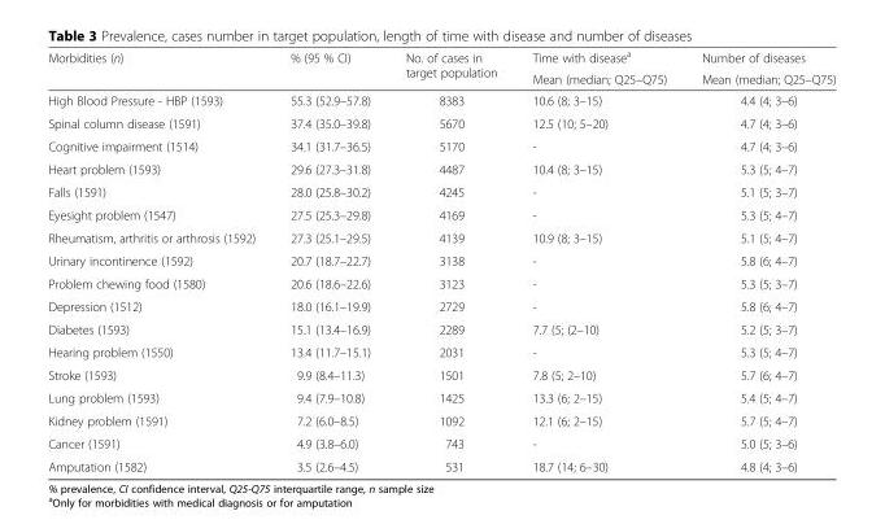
<table><thead><tr><td rowspan="2">Morbidities (n)</td><td rowspan="2">% (95 % CI)</td><td rowspan="2">No. of cases in target population</td><td rowspan="2">Time with disease<sup>a</sup> Mean (median; Q25–Q75)</td><td rowspan="2">Number of diseases Mean (median; Q25–Q75)</td></tr><tr></tr></thead><tbody><tr><td>High Blood Pressure - HBP (1593)</td><td>55.3 (52.9–57.8)</td><td>8383</td><td>10.6 (8; 3–15)</td><td>4.4 (4; 3–6)</td></tr><tr><td>Spinal column disease (1591)</td><td>37.4 (35.0–39.8)</td><td>5670</td><td>12.5 (10; 5–20)</td><td>4.7 (4; 3–6)</td></tr><tr><td>Cognitive impairment (1514)</td><td>34.1 (31.7–36.5)</td><td>5170</td><td>-</td><td>4.7 (4; 3–6)</td></tr><tr><td>Heart problem (1593)</td><td>29.6 (27.3–31.8)</td><td>4487</td><td>10.4 (8; 3–15)</td><td>5.3 (5; 4–7)</td></tr><tr><td>Falls (1591)</td><td>28.0 (25.8–30.2)</td><td>4245</td><td>-</td><td>5.1 (5; 3–7)</td></tr><tr><td>Eyesight problem (1547)</td><td>27.5 (25.3–29.8)</td><td>4169</td><td>-</td><td>5.3 (5; 4–7)</td></tr><tr><td>Rheumatism, arthritis or arthrosis (1592)</td><td>27.3 (25.1–29.5)</td><td>4139</td><td>10.9 (8; 3–15)</td><td>5.1 (5; 4–7)</td></tr><tr><td>Urinary incontinence (1592)</td><td>20.7 (18.7–22.7)</td><td>3138</td><td>-</td><td>5.8 (6; 4–7)</td></tr><tr><td>Problem chewing food (1580)</td><td>20.6 (18.6–22.6)</td><td>3123</td><td>-</td><td>5.3 (5; 3–7)</td></tr><tr><td>Depression (1512)</td><td>18.0 (16.1–19.9)</td><td>2729</td><td>-</td><td>5.8 (6; 4–7)</td></tr><tr><td>Diabetes (1593)</td><td>15.1 (13.4–16.9)</td><td>2289</td><td>7.7 (5; (2–10)</td><td>5.2 (5; 3–7)</td></tr><tr><td>Hearing problem (1550)</td><td>13.4 (11.7–15.1)</td><td>2031</td><td>-</td><td>5.3 (5; 4–7)</td></tr><tr><td>Stroke (1593)</td><td>9.9 (8.4–11.3)</td><td>1501</td><td>7.8 (5; 2–10)</td><td>5.7 (6; 4–7)</td></tr><tr><td>Lung problem (1593)</td><td>9.4 (7.9–10.8)</td><td>1425</td><td>13.3 (6; 2–15)</td><td>5.4 (5; 4–7)</td></tr><tr><td>Kidney problem (1591)</td><td>7.2 (6.0–8.5)</td><td>1092</td><td>12.1 (6; 2–15)</td><td>5.7 (5; 4–7)</td></tr><tr><td>Cancer (1591)</td><td>4.9 (3.8–6.0)</td><td>743</td><td>-</td><td>5.0 (5; 3–6)</td></tr><tr><td>Amputation (1582)</td><td>3.5 (2.6–4.5)</td><td>531</td><td>18.7 (14; 6–30)</td><td>4.8 (4; 3–6)</td></tr></tbody></table>